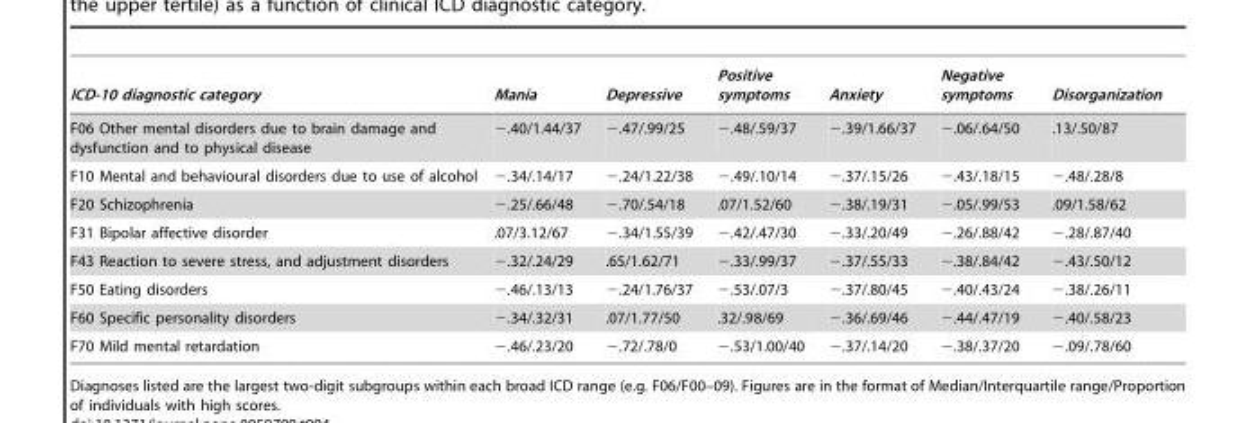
<table><thead><tr><td>ICD-10 diagnostic category</td><td>Mania</td><td>Depressive</td><td>Positive symptoms</td><td>Anxiety</td><td>Negative symptoms</td><td>Disorganization</td></tr></thead><tbody><tr><td>F06 Other mental disorders due to brain damage and dysfunction and to physical disease</td><td>−.40/1.44/37</td><td>−.47/.99/25</td><td>−.48/.59/37</td><td>−.39/1.66/37</td><td>−.06/.64/50</td><td>.13/.50/87</td></tr><tr><td>F10 Mental and behavioural disorders due to use of alcohol</td><td>−.34/.14/17</td><td>−.24/1.22/38</td><td>−.49/.10/14</td><td>−.37/.15/26</td><td>−.43/.18/15</td><td>−.48/.28/8</td></tr><tr><td>F20 Schizophrenia</td><td>−.25/.66/48</td><td>−.70/.54/18</td><td>.07/1.52/60</td><td>−.38/.19/31</td><td>−.05/.99/53</td><td>.09/1.58/62</td></tr><tr><td>F31 Bipolar affective disorder</td><td>.07/3.12/67</td><td>−.34/1.55/39</td><td>−.42/.47/30</td><td>−.33/.20/49</td><td>−.26/.88/42</td><td>−.28/.87/40</td></tr><tr><td>F43 Reaction to severe stress, and adjustment disorders</td><td>−.32/.24/29</td><td>.65/1.62/71</td><td>−.33/.99/37</td><td>−.37/.55/33</td><td>−.38/.84/42</td><td>−.43/.50/12</td></tr><tr><td>F50 Eating disorders</td><td>−.46/.13/13</td><td>−.24/1.76/37</td><td>−.53/.07/3</td><td>−.37/.80/45</td><td>−.40/.43/24</td><td>−.38/.26/11</td></tr><tr><td>F60 Specific personality disorders</td><td>−.34/.32/31</td><td>.07/1.77/50</td><td>.32/.98/69</td><td>−.36/.69/46</td><td>−.44/.47/19</td><td>−.40/.58/23</td></tr><tr><td>F70 Mild mental retardation</td><td>−.46/.23/20</td><td>−.72/.78/0</td><td>−.53/1.00/40</td><td>−.37/.14/20</td><td>−.38/.37/20</td><td>−.09/.78/60</td></tr></tbody></table>